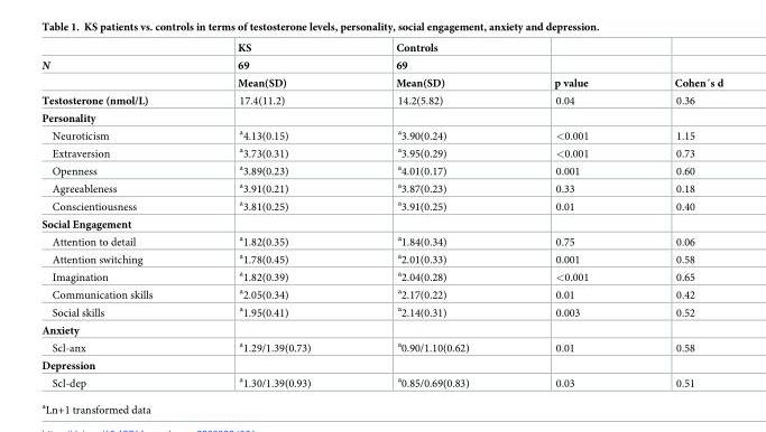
<table><thead><tr><td rowspan="3">N</td><td rowspan="3">KS 69 Mean(SD)</td><td rowspan="3">Controls 69 Mean(SD)</td><td rowspan="3">p value</td><td rowspan="3">Cohen´s d</td></tr><tr></tr><tr></tr></thead><tbody><tr><td>Testosterone (nmol/L)</td><td>17.4(11.2)</td><td>14.2(5.82)</td><td>0.04</td><td>0.36</td></tr><tr><td colspan="5">Personality</td></tr><tr><td>Neuroticism</td><td><sup>a</sup>4.13(0.15)</td><td><sup>a</sup>3.90(0.24)</td><td>&lt;0.001</td><td>1.15</td></tr><tr><td>Extraversion</td><td><sup>a</sup>3.73(0.31)</td><td><sup>a</sup>3.95(0.29)</td><td>&lt;0.001</td><td>0.73</td></tr><tr><td>Openness</td><td><sup>a</sup>3.89(0.23)</td><td><sup>a</sup>4.01(0.17)</td><td>0.001</td><td>0.60</td></tr><tr><td>Agreeableness</td><td><sup>a</sup>3.91(0.21)</td><td><sup>a</sup>3.87(0.23)</td><td>0.33</td><td>0.18</td></tr><tr><td>Conscientiousness</td><td><sup>a</sup>3.81(0.25)</td><td><sup>a</sup>3.91(0.25)</td><td>0.01</td><td>0.40</td></tr><tr><td colspan="5">Social Engagement</td></tr><tr><td>Attention to detail</td><td><sup>a</sup>1.82(0.35)</td><td><sup>a</sup>1.84(0.34)</td><td>0.75</td><td>0.06</td></tr><tr><td>Attention switching</td><td><sup>a</sup>1.78(0.45)</td><td><sup>a</sup>2.01(0.33)</td><td>0.001</td><td>0.58</td></tr><tr><td>Imagination</td><td><sup>a</sup>1.82(0.39)</td><td><sup>a</sup>2.04(0.28)</td><td>&lt;0.001</td><td>0.65</td></tr><tr><td>Communication skills</td><td><sup>a</sup>2.05(0.34)</td><td><sup>a</sup>2.17(0.22)</td><td>0.01</td><td>0.42</td></tr><tr><td>Social skills</td><td><sup>a</sup>1.95(0.41)</td><td><sup>a</sup>2.14(0.31)</td><td>0.003</td><td>0.52</td></tr><tr><td colspan="5">Anxiety</td></tr><tr><td>Scl-anx</td><td><sup>a</sup>1.29/1.39(0.73)</td><td><sup>a</sup>0.90/1.10(0.62)</td><td>0.01</td><td>0.58</td></tr><tr><td colspan="5">Depression</td></tr><tr><td>Scl-dep</td><td><sup>a</sup>1.30/1.39(0.93)</td><td><sup>a</sup>0.85/0.69(0.83)</td><td>0.03</td><td>0.51</td></tr></tbody></table>